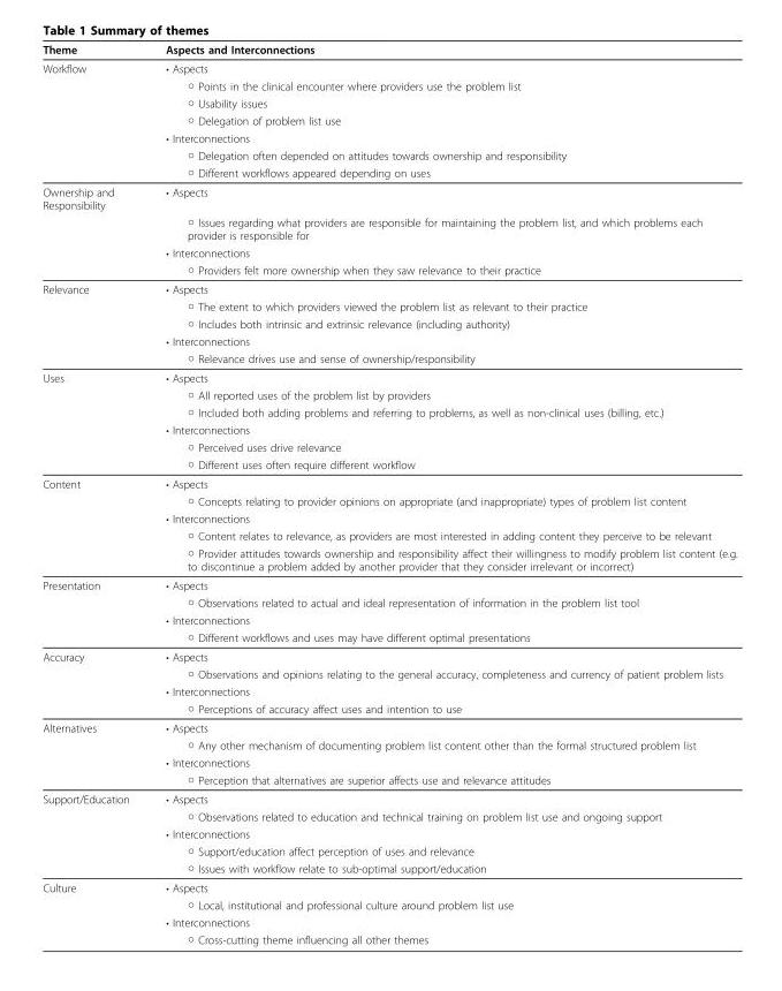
<table><thead><tr><td>Theme</td><td>Aspects and Interconnections</td></tr></thead><tbody><tr><td rowspan="7">Workflow</td><td>• Aspects</td></tr><tr><td>○ Points in the clinical encounter where providers use the problem list</td></tr><tr><td>○ Usability issues</td></tr><tr><td>○ Delegation of problem list use</td></tr><tr><td>• Interconnections</td></tr><tr><td>○ Delegation often depended on attitudes towards ownership and responsibility</td></tr><tr><td>○ Different workflows appeared depending on uses</td></tr><tr><td rowspan="4">Ownership and Responsibility</td><td>• Aspects</td></tr><tr><td>○ Issues regarding what providers are responsible for maintaining the problem list, and which problems each provider is responsible for</td></tr><tr><td>• Interconnections</td></tr><tr><td>○ Providers felt more ownership when they saw relevance to their practice</td></tr><tr><td rowspan="5">Relevance</td><td>• Aspects</td></tr><tr><td>○ The extent to which providers viewed the problem list as relevant to their practice</td></tr><tr><td>○ Includes both intrinsic and extrinsic relevance (including authority)</td></tr><tr><td>• Interconnections</td></tr><tr><td>○ Relevance drives use and sense of ownership/responsibility</td></tr><tr><td rowspan="6">Uses</td><td>• Aspects</td></tr><tr><td>○ All reported uses of the problem list by providers</td></tr><tr><td>○ Included both adding problems and referring to problems, as well as non-clinical uses (billing, etc.)</td></tr><tr><td>• Interconnections</td></tr><tr><td>○ Perceived uses drive relevance</td></tr><tr><td>○ Different uses often require different workflow</td></tr><tr><td rowspan="5">Content</td><td>• Aspects</td></tr><tr><td>○ Concepts relating to provider opinions on appropriate (and inappropriate) types of problem list content</td></tr><tr><td>• Interconnections</td></tr><tr><td>○ Content relates to relevance, as providers are most interested in adding content they perceive to be relevant</td></tr><tr><td>○ Provider attitudes towards ownership and responsibility affect their willingness to modify problem list content (e.g. to discontinue a problem added by another provider that they consider irrelevant or incorrect)</td></tr><tr><td rowspan="4">Presentation</td><td>• Aspects</td></tr><tr><td>○ Observations related to actual and ideal representation of information in the problem list tool</td></tr><tr><td>• Interconnections</td></tr><tr><td>○ Different workflows and uses may have different optimal presentations</td></tr><tr><td rowspan="4">Accuracy</td><td>• Aspects</td></tr><tr><td>○ Observations and opinions relating to the general accuracy, completeness and currency of patient problem lists</td></tr><tr><td>• Interconnections</td></tr><tr><td>○ Perceptions of accuracy affect uses and intention to use</td></tr><tr><td rowspan="4">Alternatives</td><td>• Aspects</td></tr><tr><td>○ Any other mechanism of documenting problem list content other than the formal structured problem list</td></tr><tr><td>• Interconnections</td></tr><tr><td>○ Perception that alternatives are superior affects use and relevance attitudes</td></tr><tr><td rowspan="5">Support/Education</td><td>• Aspects</td></tr><tr><td>○ Observations related to education and technical training on problem list use and ongoing support</td></tr><tr><td>• Interconnections</td></tr><tr><td>○ Support/education affect perception of uses and relevance</td></tr><tr><td>○ Issues with workflow relate to sub-optimal support/education</td></tr><tr><td rowspan="4">Culture</td><td>• Aspects</td></tr><tr><td>○ Local, institutional and professional culture around problem list use</td></tr><tr><td>• Interconnections</td></tr><tr><td>○ Cross-cutting theme influencing all other themes</td></tr></tbody></table>